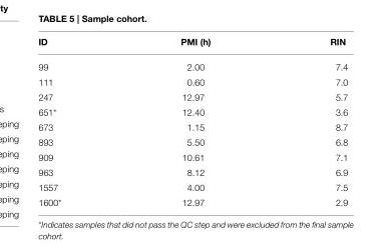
<table><thead><tr><td>ID</td><td>PMI (h)</td><td>RIN</td></tr></thead><tbody><tr><td>99</td><td>2.00</td><td>7.4</td></tr><tr><td>111</td><td>0.60</td><td>7.0</td></tr><tr><td>247</td><td>12.97</td><td>5.7</td></tr><tr><td>651*</td><td>12.40</td><td>3.6</td></tr><tr><td>673</td><td>1.15</td><td>8.7</td></tr><tr><td>893</td><td>5.50</td><td>6.8</td></tr><tr><td>909</td><td>10.61</td><td>7.1</td></tr><tr><td>963</td><td>8.12</td><td>6.9</td></tr><tr><td>1557</td><td>4.00</td><td>7.5</td></tr><tr><td>1600*</td><td>12.97</td><td>2.9</td></tr></tbody></table>